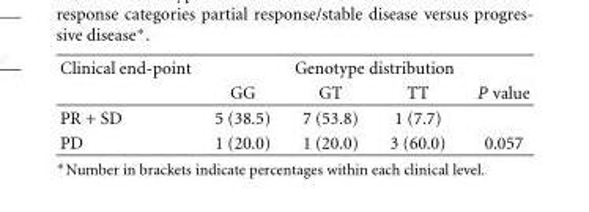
<table><thead><tr><td rowspan="2">Clinical end-point</td><td colspan="4">Genotype distribution</td></tr><tr><td>GG</td><td>GT</td><td>TT</td><td>P value</td></tr></thead><tbody><tr><td>PR + SD</td><td>5 (38.5)</td><td>7 (53.8)</td><td>1 (7.7)</td><td></td></tr><tr><td>PD</td><td>1 (20.0)</td><td>1 (20.0)</td><td>3 (60.0)</td><td>0.057</td></tr></tbody></table>